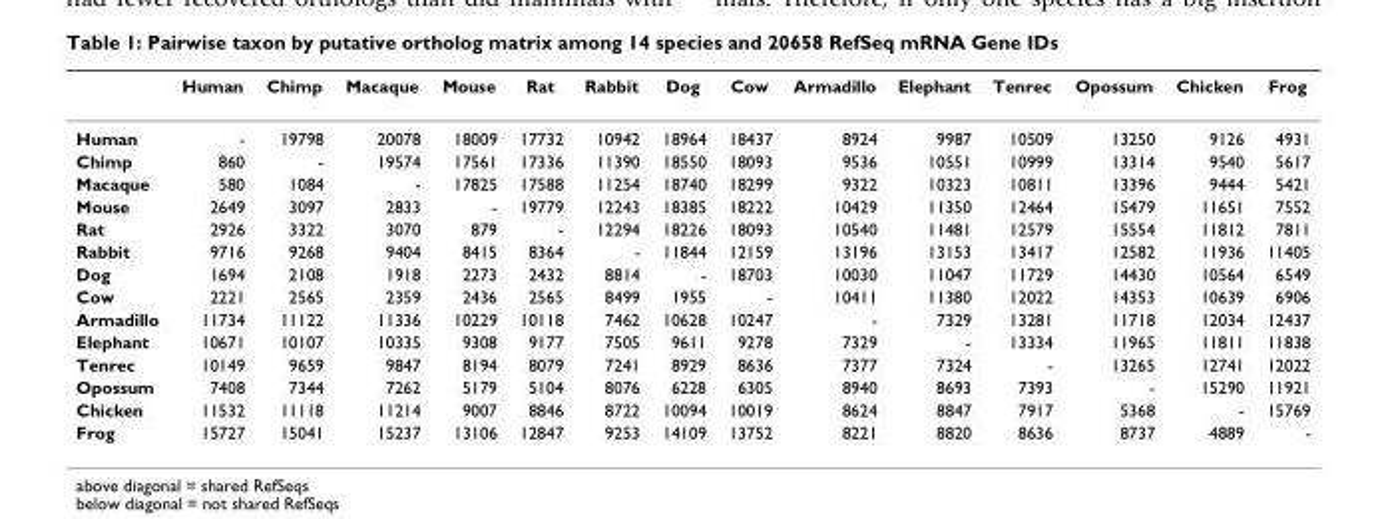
<table><thead><tr><td></td><td>Human</td><td>Chimp</td><td>Macaque</td><td>Mouse</td><td>Rat</td><td>Rabbit</td><td>Dog</td><td>Cow</td><td>Armadillo</td><td>Elephant</td><td>Tenrec</td><td>Opossum</td><td>Chicken</td><td>Frog</td></tr></thead><tbody><tr><td>Human</td><td>-</td><td>19798</td><td>20078</td><td>18009</td><td>17732</td><td>10942</td><td>18964</td><td>18437</td><td>8924</td><td>9987</td><td>10509</td><td>13250</td><td>9126</td><td>4931</td></tr><tr><td>Chimp</td><td>860</td><td>-</td><td>19574</td><td>17561</td><td>17336</td><td>11390</td><td>18550</td><td>18093</td><td>9536</td><td>10551</td><td>10999</td><td>13314</td><td>9540</td><td>5617</td></tr><tr><td>Macaque</td><td>580</td><td>1084</td><td>-</td><td>17825</td><td>17588</td><td>11254</td><td>18740</td><td>18299</td><td>9322</td><td>10323</td><td>10811</td><td>13396</td><td>9444</td><td>5421</td></tr><tr><td>Mouse</td><td>2649</td><td>3097</td><td>2833</td><td>-</td><td>19779</td><td>12243</td><td>18385</td><td>18222</td><td>10429</td><td>11350</td><td>12464</td><td>15479</td><td>11651</td><td>7552</td></tr><tr><td>Rat</td><td>2926</td><td>3322</td><td>3070</td><td>879</td><td>-</td><td>12294</td><td>18226</td><td>18093</td><td>10540</td><td>11481</td><td>12579</td><td>15554</td><td>11812</td><td>7811</td></tr><tr><td>Rabbit</td><td>9716</td><td>9268</td><td>9404</td><td>8415</td><td>8364</td><td>-</td><td>11844</td><td>12159</td><td>13196</td><td>13153</td><td>13417</td><td>12582</td><td>11936</td><td>11405</td></tr><tr><td>Dog</td><td>1694</td><td>2108</td><td>1918</td><td>2273</td><td>2432</td><td>8814</td><td>-</td><td>18703</td><td>10030</td><td>11047</td><td>11729</td><td>14430</td><td>10564</td><td>6549</td></tr><tr><td>Cow</td><td>2221</td><td>2565</td><td>2359</td><td>2436</td><td>2565</td><td>8499</td><td>1955</td><td>-</td><td>10411</td><td>11380</td><td>12022</td><td>14353</td><td>10639</td><td>6906</td></tr><tr><td>Armadillo</td><td>11734</td><td>11122</td><td>11336</td><td>10229</td><td>10118</td><td>7462</td><td>10628</td><td>10247</td><td>-</td><td>7329</td><td>13281</td><td>11718</td><td>12034</td><td>12437</td></tr><tr><td>Elephant</td><td>10671</td><td>10107</td><td>10335</td><td>9308</td><td>9177</td><td>7505</td><td>9611</td><td>9278</td><td>7329</td><td>-</td><td>13334</td><td>11965</td><td>11811</td><td>11838</td></tr><tr><td>Tenrec</td><td>10149</td><td>9659</td><td>9847</td><td>8194</td><td>8079</td><td>7241</td><td>8929</td><td>8636</td><td>7377</td><td>7324</td><td>-</td><td>13265</td><td>12741</td><td>12022</td></tr><tr><td>Opossum</td><td>7408</td><td>7344</td><td>7262</td><td>5179</td><td>5104</td><td>8076</td><td>6228</td><td>6305</td><td>8940</td><td>8693</td><td>7393</td><td>-</td><td>15290</td><td>11921</td></tr><tr><td>Chicken</td><td>11532</td><td>11118</td><td>11214</td><td>9007</td><td>8846</td><td>8722</td><td>10094</td><td>10019</td><td>8624</td><td>8847</td><td>7917</td><td>5368</td><td>-</td><td>15769</td></tr><tr><td>Frog</td><td>15727</td><td>15041</td><td>15237</td><td>13106</td><td>12847</td><td>9253</td><td>14109</td><td>13752</td><td>8221</td><td>8820</td><td>8636</td><td>8737</td><td>4889</td><td>-</td></tr></tbody></table>